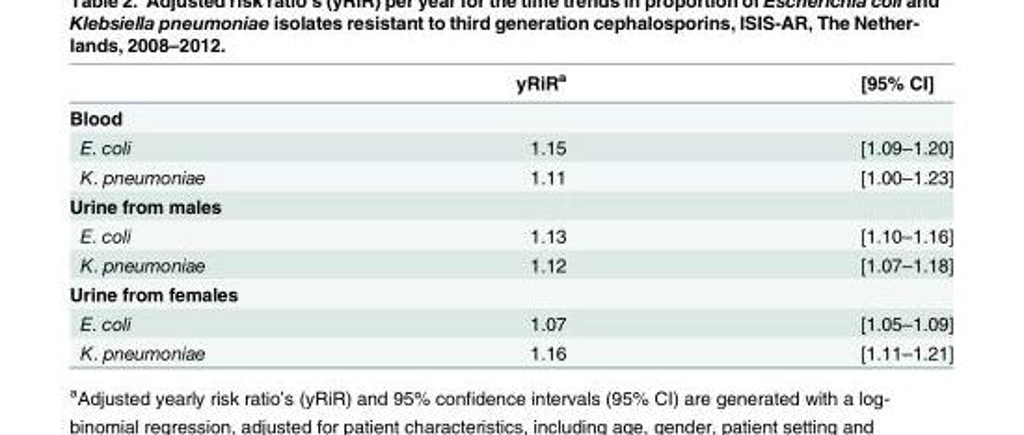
<table><thead><tr><td></td><td>yRiR<sup>a</sup></td><td>[95% CI]</td></tr></thead><tbody><tr><td colspan="3">Blood</td></tr><tr><td>E. coli</td><td>1.15</td><td>[1.09–1.20]</td></tr><tr><td>K. pneumoniae</td><td>1.11</td><td>[1.00–1.23]</td></tr><tr><td colspan="3">Urine from males</td></tr><tr><td>E. coli</td><td>1.13</td><td>[1.10–1.16]</td></tr><tr><td>K. pneumoniae</td><td>1.12</td><td>[1.07–1.18]</td></tr><tr><td colspan="3">Urine from females</td></tr><tr><td>E. coli</td><td>1.07</td><td>[1.05–1.09]</td></tr><tr><td>K. pneumoniae</td><td>1.16</td><td>[1.11–1.21]</td></tr></tbody></table>